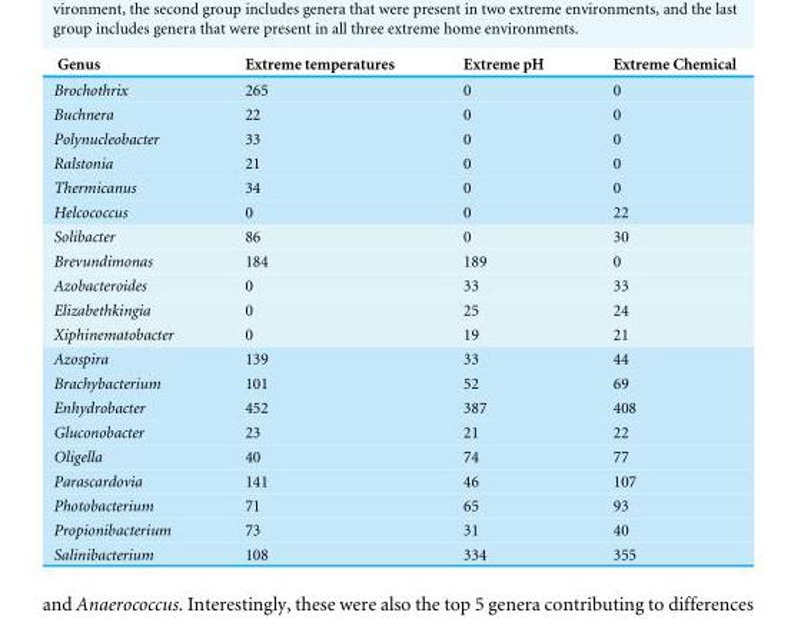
<table><thead><tr><td>Genus</td><td>Extreme temperatures</td><td>Extreme pH</td><td>Extreme Chemical</td></tr></thead><tbody><tr><td>Brochothrix</td><td>265</td><td>0</td><td>0</td></tr><tr><td>Buchnera</td><td>22</td><td>0</td><td>0</td></tr><tr><td>Polynucleobacter</td><td>33</td><td>0</td><td>0</td></tr><tr><td>Ralstonia</td><td>21</td><td>0</td><td>0</td></tr><tr><td>Thermicanus</td><td>34</td><td>0</td><td>0</td></tr><tr><td>Helcococcus</td><td>0</td><td>0</td><td>22</td></tr><tr><td>Solibacter</td><td>86</td><td>0</td><td>30</td></tr><tr><td>Brevundimonas</td><td>184</td><td>189</td><td>0</td></tr><tr><td>Azobacteroides</td><td>0</td><td>33</td><td>33</td></tr><tr><td>Elizabethkingia</td><td>0</td><td>25</td><td>24</td></tr><tr><td>Xiphinematobacter</td><td>0</td><td>19</td><td>21</td></tr><tr><td>Azospira</td><td>139</td><td>33</td><td>44</td></tr><tr><td>Brachybacterium</td><td>101</td><td>52</td><td>69</td></tr><tr><td>Enhydrobacter</td><td>452</td><td>387</td><td>408</td></tr><tr><td>Gluconobacter</td><td>23</td><td>21</td><td>22</td></tr><tr><td>Oligella</td><td>40</td><td>74</td><td>77</td></tr><tr><td>Parascardovia</td><td>141</td><td>46</td><td>107</td></tr><tr><td>Photobacterium</td><td>71</td><td>65</td><td>93</td></tr><tr><td>Propionibacterium</td><td>73</td><td>31</td><td>40</td></tr><tr><td>Salinibacterium</td><td>108</td><td>334</td><td>355</td></tr></tbody></table>